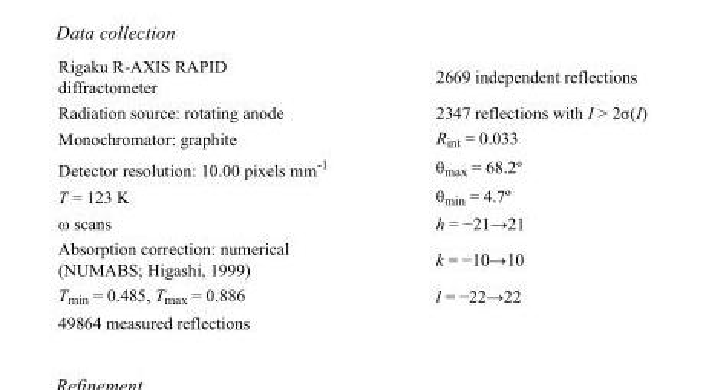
<table><tbody><tr><td>Rigaku R-AXIS RAPID diffractometer</td><td>2669 independent reflections</td></tr><tr><td>Radiation source: rotating anode</td><td>2347 reflections with I &gt; 2σ(I)</td></tr><tr><td>Monochromator: graphite</td><td>R<sub>int</sub> = 0.033</td></tr><tr><td>Detector resolution: 10.00 pixels mm<sup>-1</sup></td><td>θ<sub>max</sub> = 68.2º</td></tr><tr><td>T = 123 K</td><td>θ<sub>min</sub> = 4.7º</td></tr><tr><td>ω scans</td><td>h = −21→21</td></tr><tr><td>Absorption correction: numerical (NUMABS; Higashi, 1999)</td><td>k = −10→10</td></tr><tr><td>T<sub>min</sub> = 0.485, T<sub>max</sub> = 0.886</td><td>l = −22→22</td></tr><tr><td>49864 measured reflections</td><td></td></tr></tbody></table>